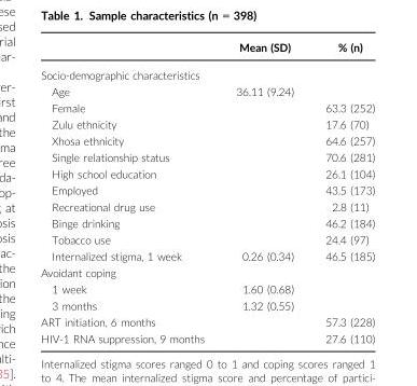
<table><thead><tr><td></td><td>Mean (SD)</td><td>% (n)</td></tr></thead><tbody><tr><td colspan="3">Socio-demographic characteristics</td></tr><tr><td>Age</td><td>36.11 (9.24)</td><td></td></tr><tr><td>Female</td><td></td><td>63.3 (252)</td></tr><tr><td>Zulu ethnicity</td><td></td><td>17.6 (70)</td></tr><tr><td>Xhosa ethnicity</td><td></td><td>64.6 (257)</td></tr><tr><td>Single relationship status</td><td></td><td>70.6 (281)</td></tr><tr><td>High school education</td><td></td><td>26.1 (104)</td></tr><tr><td>Employed</td><td></td><td>43.5 (173)</td></tr><tr><td>Recreational drug use</td><td></td><td>2.8 (11)</td></tr><tr><td>Binge drinking</td><td></td><td>46.2 (184)</td></tr><tr><td>Tobacco use</td><td></td><td>24.4 (97)</td></tr><tr><td>Internalized stigma, 1 week</td><td>0.26 (0.34)</td><td>46.5 (185)</td></tr><tr><td colspan="3">Avoidant coping</td></tr><tr><td>1 week</td><td>1.60 (0.68)</td><td></td></tr><tr><td>3 months</td><td>1.32 (0.55)</td><td></td></tr><tr><td>ART initiation, 6 months</td><td></td><td>57.3 (228)</td></tr><tr><td>HIV-1 RNA suppression, 9 months</td><td></td><td>27.6 (110)</td></tr></tbody></table>